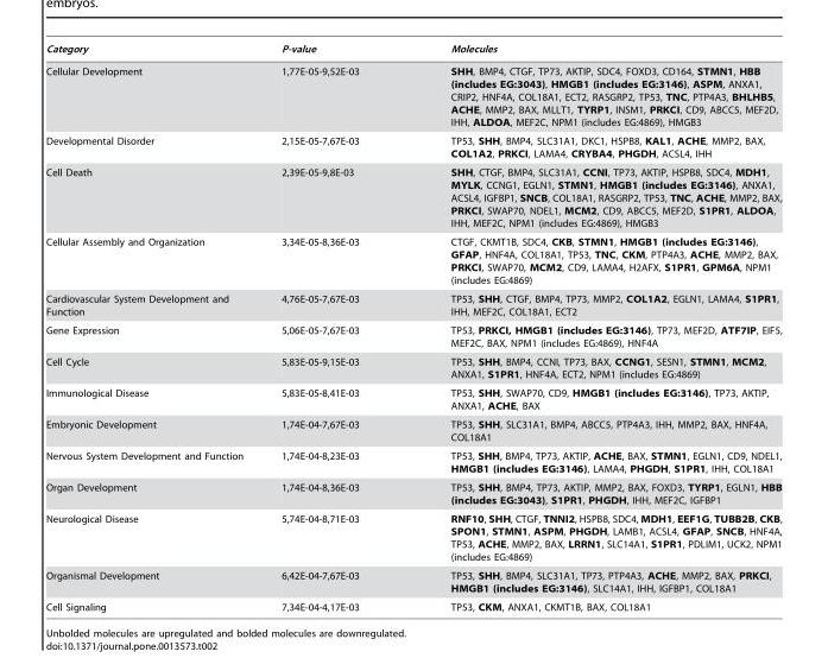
<table><thead><tr><td>Category</td><td>P-value</td><td>Molecules</td></tr></thead><tbody><tr><td>Cellular Development</td><td>1,77E-05-9,52E-03</td><td>SHH, BMP4, CTGF, TP73, AKTIP, SDC4, FOXD3, CD164, STMN1, HBB (includes EG:3043), HMGB1 (includes EG:3146), ASPM, ANXA1, CRIP2, HNF4A, COL18A1, ECT2, RASGRP2, TP53, TNC, PTP4A3, BHLHB5, ACHE, MMP2, BAX, MLLT1, TYRP1, INSM1, PRKCI, CD9, ABCC5, MEF2D, IHH, ALDOA, MEF2C, NPM1 (includes EG:4869), HMGB3</td></tr><tr><td>Developmental Disorder</td><td>2,15E-05-7,67E-03</td><td>TP53, SHH, BMP4, SLC31A1, DKC1, HSPB8, KAL1, ACHE, MMP2, BAX, COL1A2, PRKCI, LAMA4, CRYBA4, PHGDH, ACSL4, IHH</td></tr><tr><td>Cell Death</td><td>2,39E-05-9,8E-03</td><td>SHH, CTGF, BMP4, SLC31A1, CCNI, TP73, AKTIP, HSPB8, SDC4, MDH1, MYLK, CCNG1, EGLN1, STMN1, HMGB1 (includes EG:3146), ANXA1, ACSL4, IGFBP1, SNCB, COL18A1, RASGRP2, TP53, TNC, ACHE, MMP2, BAX, PRKCI, SWAP70, NDEL1, MCM2, CD9, ABCC5, MEF2D, S1PR1, ALDOA, IHH, MEF2C, NPM1 (includes EG:4869), HMGB3</td></tr><tr><td>Cellular Assembly and Organization</td><td>3,34E-05-8,36E-03</td><td>CTGF, CKMT1B, SDC4, CKB, STMN1, HMGB1 (includes EG:3146), GFAP, HNF4A, COL18A1, TP53, TNC, CKM, PTP4A3, ACHE, MMP2, BAX, PRKCI, SWAP70, MCM2, CD9, LAMA4, H2AFX, S1PR1, GPM6A, NPM1 (includes EG:4869)</td></tr><tr><td>Cardiovascular System Development and Function</td><td>4,76E-05-7,67E-03</td><td>TP53, SHH, CTGF, BMP4, TP73, MMP2, COL1A2, EGLN1, LAMA4, S1PR1, IHH, MEF2C, COL18A1, ECT2</td></tr><tr><td>Gene Expression</td><td>5,06E-05-7,67E-03</td><td>TP53, PRKCI, HMGB1 (includes EG:3146), TP73, MEF2D, ATF7IP, EIF5, MEF2C, BAX, NPM1 (includes EG:4869), HNF4A</td></tr><tr><td>Cell Cycle</td><td>5,83E-05-9,15E-03</td><td>TP53, SHH, BMP4, CCNI, TP73, BAX, CCNG1, SESN1, STMN1, MCM2, ANXA1, S1PR1, HNF4A, ECT2, NPM1 (includes EG:4869)</td></tr><tr><td>Immunological Disease</td><td>5,83E-05-8,41E-03</td><td>TP53, SHH, SWAP70, CD9, HMGB1 (includes EG:3146), TP73, AKTIP, ANXA1, ACHE, BAX</td></tr><tr><td>Embryonic Development</td><td>1,74E-04-7,67E-03</td><td>TP53, SHH, SLC31A1, BMP4, ABCC5, PTP4A3, IHH, MMP2, BAX, HNF4A, COL18A1</td></tr><tr><td>Nervous System Development and Function</td><td>1,74E-04-8,23E-03</td><td>TP53, SHH, BMP4, TP73, AKTIP, ACHE, BAX, STMN1, EGLN1, CD9, NDEL1, HMGB1 (includes EG:3146), LAMA4, PHGDH, S1PR1, IHH, COL18A1</td></tr><tr><td>Organ Development</td><td>1,74E-04-8,36E-03</td><td>TP53, SHH, BMP4, TP73, AKTIP, MMP2, BAX, FOXD3, TYRP1, EGLN1, HBB (includes EG:3043), S1PR1, PHGDH, IHH, MEF2C, IGFBP1</td></tr><tr><td>Neurological Disease</td><td>5,74E-04-8,71E-03</td><td>RNF10, SHH, CTGF, TNNI2, HSPB8, SDC4, MDH1, EEF1G, TUBB2B, CKB, SPON1, STMN1, ASPM, PHGDH, LAMB1, ACSL4, GFAP, SNCB, HNF4A, TP53, ACHE, MMP2, BAX, LRRN1, SLC14A1, S1PR1, PDLIM1, UCK2, NPM1 (includes EG:4869)</td></tr><tr><td>Organismal Development</td><td>6,42E-04-7,67E-03</td><td>TP53, SHH, BMP4, SLC31A1, TP73, PTP4A3, ACHE, MMP2, BAX, PRKCI, HMGB1 (includes EG:3146), SLC14A1, IHH, IGFBP1, COL18A1</td></tr><tr><td>Cell Signaling</td><td>7,34E-04-4,17E-03</td><td>TP53, CKM, ANXA1, CKMT1B, BAX, COL18A1</td></tr></tbody></table>